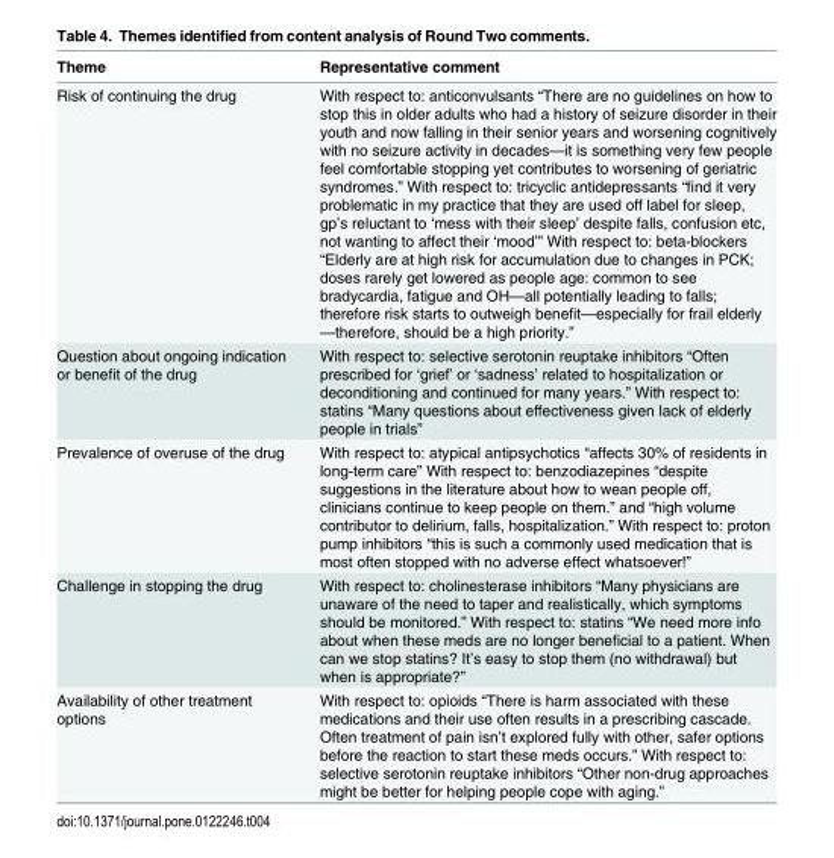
<table><thead><tr><td>Theme</td><td>Representative comment</td></tr></thead><tbody><tr><td>Risk of continuing the drug</td><td>With respect to: anticonvulsants “There are no guidelines on how to stop this in older adults who had a history of seizure disorder in their youth and now falling in their senior years and worsening cognitively with no seizure activity in decades—it is something very few people feel comfortable stopping yet contributes to worsening of geriatric syndromes.” With respect to: tricyclic antidepressants “find it very problematic in my practice that they are used off label for sleep, gp’s reluctant to ‘mess with their sleep’ despite falls, confusion etc, not wanting to affect their ‘mood’” With respect to: beta-blockers “Elderly are at high risk for accumulation due to changes in PCK; doses rarely get lowered as people age: common to see bradycardia, fatigue and OH—all potentially leading to falls; therefore risk starts to outweigh benefit—especially for frail elderly —therefore, should be a high priority.”</td></tr><tr><td>Question about ongoing indication or benefit of the drug</td><td>With respect to: selective serotonin reuptake inhibitors “Often prescribed for ‘grief’ or ‘sadness’ related to hospitalization or deconditioning and continued for many years.” With respect to: statins “Many questions about effectiveness given lack of elderly people in trials”</td></tr><tr><td>Prevalence of overuse of the drug</td><td>With respect to: atypical antipsychotics “affects 30% of residents in long-term care” With respect to: benzodiazepines “despite suggestions in the literature about how to wean people off, clinicians continue to keep people on them.” and “high volume contributor to delirium, falls, hospitalization.” With respect to: proton pump inhibitors “this is such a commonly used medication that is most often stopped with no adverse effect whatsoever!”</td></tr><tr><td>Challenge in stopping the drug</td><td>With respect to: cholinesterase inhibitors “Many physicians are unaware of the need to taper and realistically, which symptoms should be monitored.” With respect to: statins “We need more info about when these meds are no longer beneficial to a patient. When can we stop statins? It’s easy to stop them (no withdrawal) but when is appropriate?”</td></tr><tr><td>Availability of other treatment options</td><td>With respect to: opioids “There is harm associated with these medications and their use often results in a prescribing cascade. Often treatment of pain isn’t explored fully with other, safer options before the reaction to start these meds occurs.” With respect to: selective serotonin reuptake inhibitors “Other non-drug approaches might be better for helping people cope with aging.”</td></tr></tbody></table>